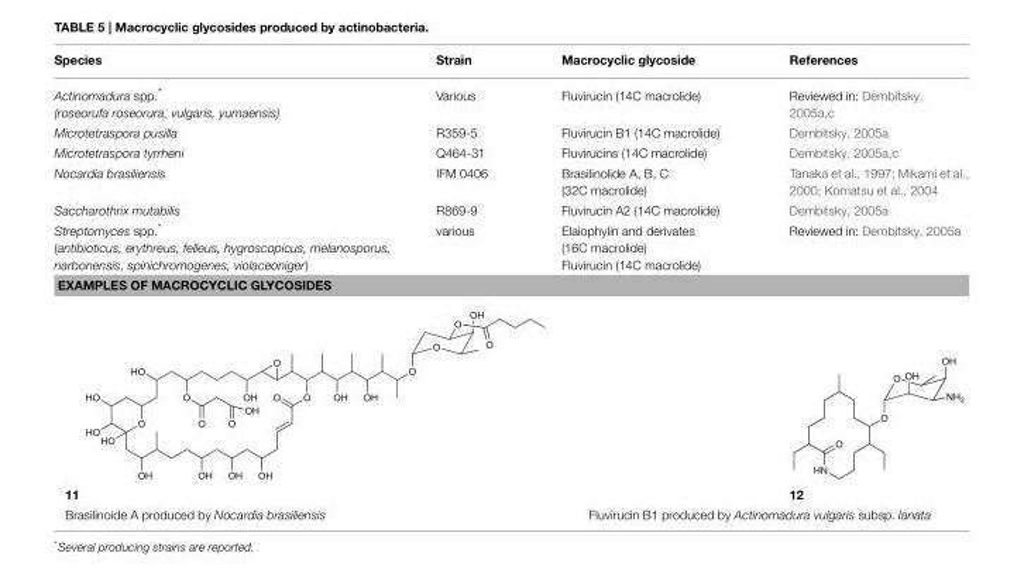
<table><thead><tr><td>Species</td><td>Strain</td><td>Macrocyclic glycoside</td><td>References</td></tr></thead><tbody><tr><td>Actinomadura spp.* (roseorufa roseorura, vulgaris, yumaensis)</td><td>Various</td><td>Fluvirucin (14C macrolide)</td><td>Reviewed in: Dembitsky, 2005a,c</td></tr><tr><td>Microtetraspora pusilla</td><td>R359-5</td><td>Fluvirucin B1 (14C macrolide)</td><td>Dembitsky, 2005a</td></tr><tr><td>Microtetraspora tyrrheni</td><td>Q464-31</td><td>Fluvirucins (14C macrolide)</td><td>Dembitsky, 2005a,c</td></tr><tr><td>Nocardia brasiliensis</td><td>IFM 0406</td><td>Brasilinolide A, B, C (32C macrolide)</td><td>Tanaka et al., 1997; Mikami et al., 2000; Komatsu et al., 2004</td></tr><tr><td>Saccharothrix mutabilis</td><td>R869-9</td><td>Fluvirucin A2 (14C macrolide)</td><td>Dembitsky, 2005a</td></tr><tr><td>Streptomyces spp.* (antibioticus, erythreus, felleus, hygroscopicus, melanosporus, narbonensis, spinichromogenes, violaceoniger)</td><td>various</td><td>Elaiophylin and derivates (16C macrolide) Fluvirucin (14C macrolide)</td><td>Reviewed in: Dembitsky, 2005a</td></tr><tr><td colspan="4">EXAMPLES OF MACROCYCLIC GLYCOSIDES</td></tr><tr><td colspan="3">11</td><td>12</td></tr><tr><td colspan="2">Brasilinoide A produced by Nocardia brasiliensis</td><td colspan="2">Fluvirucin B1 produced by Actinomadura vulgaris subsp. lanata</td></tr></tbody></table>